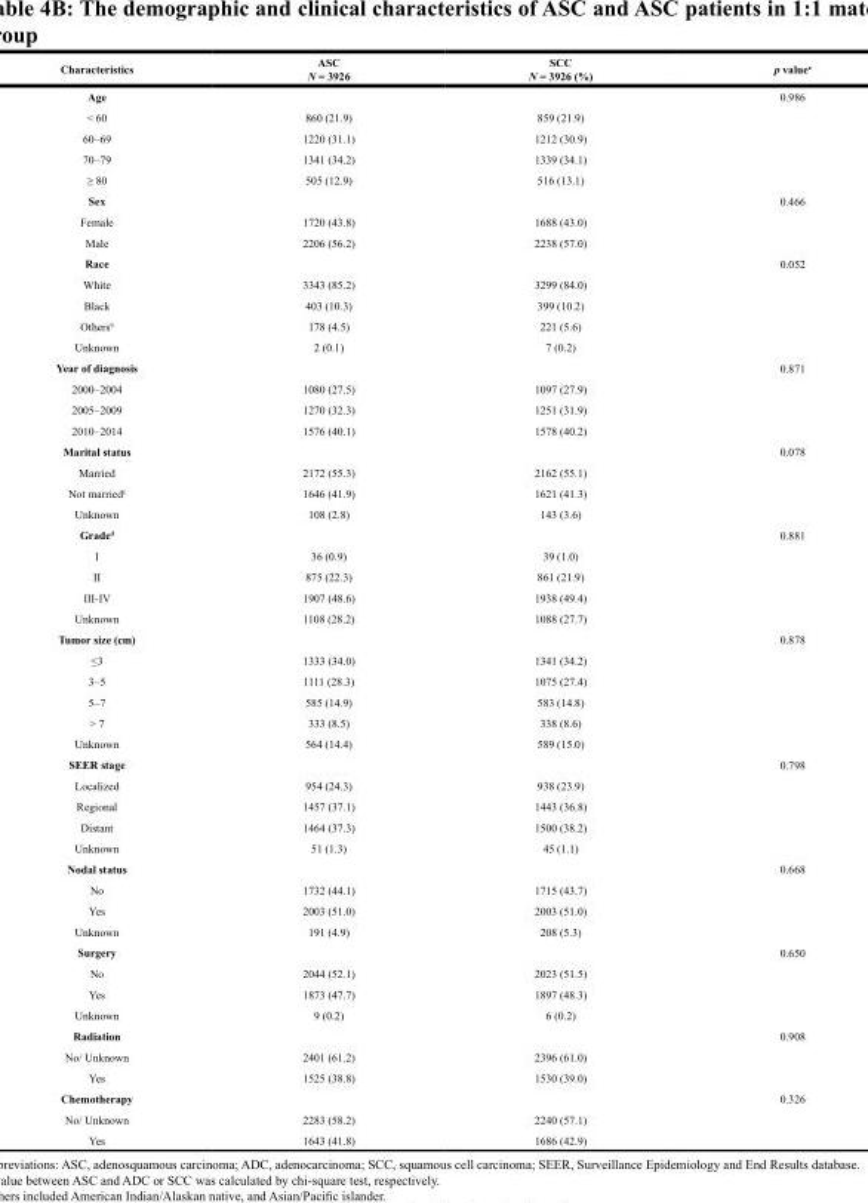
<table><thead><tr><td>Characteristics</td><td>ASC N = 3926</td><td>SCC N = 3926 (%)</td><td>p value<sup>a</sup></td></tr></thead><tbody><tr><td>Age</td><td></td><td></td><td>0.986</td></tr><tr><td>&lt; 60</td><td>860 (21.9)</td><td>859 (21.9)</td><td></td></tr><tr><td>60–69</td><td>1220 (31.1)</td><td>1212 (30.9)</td><td></td></tr><tr><td>70–79</td><td>1341 (34.2)</td><td>1339 (34.1)</td><td></td></tr><tr><td>≥ 80</td><td>505 (12.9)</td><td>516 (13.1)</td><td></td></tr><tr><td>Sex</td><td></td><td></td><td>0.466</td></tr><tr><td>Female</td><td>1720 (43.8)</td><td>1688 (43.0)</td><td></td></tr><tr><td>Male</td><td>2206 (56.2)</td><td>2238 (57.0)</td><td></td></tr><tr><td>Race</td><td></td><td></td><td>0.052</td></tr><tr><td>White</td><td>3343 (85.2)</td><td>3299 (84.0)</td><td></td></tr><tr><td>Black</td><td>403 (10.3)</td><td>399 (10.2)</td><td></td></tr><tr><td>Others<sup>b</sup></td><td>178 (4.5)</td><td>221 (5.6)</td><td></td></tr><tr><td>Unknown</td><td>2 (0.1)</td><td>7 (0.2)</td><td></td></tr><tr><td>Year of diagnosis</td><td></td><td></td><td>0.871</td></tr><tr><td>2000–2004</td><td>1080 (27.5)</td><td>1097 (27.9)</td><td></td></tr><tr><td>2005–2009</td><td>1270 (32.3)</td><td>1251 (31.9)</td><td></td></tr><tr><td>2010–2014</td><td>1576 (40.1)</td><td>1578 (40.2)</td><td></td></tr><tr><td>Marital status</td><td></td><td></td><td>0.078</td></tr><tr><td>Married</td><td>2172 (55.3)</td><td>2162 (55.1)</td><td></td></tr><tr><td>Not married<sup>c</sup></td><td>1646 (41.9)</td><td>1621 (41.3)</td><td></td></tr><tr><td>Unknown</td><td>108 (2.8)</td><td>143 (3.6)</td><td></td></tr><tr><td>Grade<sup>d</sup></td><td></td><td></td><td>0.881</td></tr><tr><td>I</td><td>36 (0.9)</td><td>39 (1.0)</td><td></td></tr><tr><td>II</td><td>875 (22.3)</td><td>861 (21.9)</td><td></td></tr><tr><td>III-IV</td><td>1907 (48.6)</td><td>1938 (49.4)</td><td></td></tr><tr><td>Unknown</td><td>1108 (28.2)</td><td>1088 (27.7)</td><td></td></tr><tr><td>Tumor size (cm)</td><td></td><td></td><td>0.878</td></tr><tr><td>≤3</td><td>1333 (34.0)</td><td>1341 (34.2)</td><td></td></tr><tr><td>3–5</td><td>1111 (28.3)</td><td>1075 (27.4)</td><td></td></tr><tr><td>5–7</td><td>585 (14.9)</td><td>583 (14.8)</td><td></td></tr><tr><td>&gt; 7</td><td>333 (8.5)</td><td>338 (8.6)</td><td></td></tr><tr><td>Unknown</td><td>564 (14.4)</td><td>589 (15.0)</td><td></td></tr><tr><td>SEER stage</td><td></td><td></td><td>0.798</td></tr><tr><td>Localized</td><td>954 (24.3)</td><td>938 (23.9)</td><td></td></tr><tr><td>Regional</td><td>1457 (37.1)</td><td>1443 (36.8)</td><td></td></tr><tr><td>Distant</td><td>1464 (37.3)</td><td>1500 (38.2)</td><td></td></tr><tr><td>Unknown</td><td>51 (1.3)</td><td>45 (1.1)</td><td></td></tr><tr><td>Nodal status</td><td></td><td></td><td>0.668</td></tr><tr><td>No</td><td>1732 (44.1)</td><td>1715 (43.7)</td><td></td></tr><tr><td>Yes</td><td>2003 (51.0)</td><td>2003 (51.0)</td><td></td></tr><tr><td>Unknown</td><td>191 (4.9)</td><td>208 (5.3)</td><td></td></tr><tr><td>Surgery</td><td></td><td></td><td>0.650</td></tr><tr><td>No</td><td>2044 (52.1)</td><td>2023 (51.5)</td><td></td></tr><tr><td>Yes</td><td>1873 (47.7)</td><td>1897 (48.3)</td><td></td></tr><tr><td>Unknown</td><td>9 (0.2)</td><td>6 (0.2)</td><td></td></tr><tr><td>Radiation</td><td></td><td></td><td>0.908</td></tr><tr><td>No/ Unknown</td><td>2401 (61.2)</td><td>2396 (61.0)</td><td></td></tr><tr><td>Yes</td><td>1525 (38.8)</td><td>1530 (39.0)</td><td></td></tr><tr><td>Chemotherapy</td><td></td><td></td><td>0.326</td></tr><tr><td>No/ Unknown</td><td>2283 (58.2)</td><td>2240 (57.1)</td><td></td></tr><tr><td>Yes</td><td>1643 (41.8)</td><td>1686 (42.9)</td><td></td></tr></tbody></table>